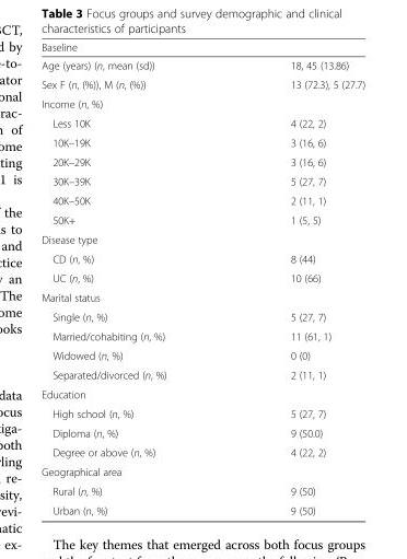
<table><thead><tr><td colspan="2">Baseline</td></tr><tr><td>Age (years) (n, mean (sd))</td><td>18, 45 (13.86)</td></tr></thead><tbody><tr><td>Sex F (n, (%)), M (n, (%))</td><td>13 (72.3), 5 (27.7)</td></tr><tr><td colspan="2">Income (n, %)</td></tr><tr><td>Less 10K</td><td>4 (22, 2)</td></tr><tr><td>10K–19K</td><td>3 (16, 6)</td></tr><tr><td>20K–29K</td><td>3 (16, 6)</td></tr><tr><td>30K–39K</td><td>5 (27, 7)</td></tr><tr><td>40K–50K</td><td>2 (11, 1)</td></tr><tr><td>50K+</td><td>1 (5, 5)</td></tr><tr><td colspan="2">Disease type</td></tr><tr><td>CD (n, %)</td><td>8 (44)</td></tr><tr><td>UC (n, %)</td><td>10 (66)</td></tr><tr><td colspan="2">Marital status</td></tr><tr><td>Single (n, %)</td><td>5 (27, 7)</td></tr><tr><td>Married/cohabiting (n, %)</td><td>11 (61, 1)</td></tr><tr><td>Widowed (n, %)</td><td>0 (0)</td></tr><tr><td>Separated/divorced (n, %)</td><td>2 (11, 1)</td></tr><tr><td colspan="2">Education</td></tr><tr><td>High school (n, %)</td><td>5 (27, 7)</td></tr><tr><td>Diploma (n, %)</td><td>9 (50.0)</td></tr><tr><td>Degree or above (n, %)</td><td>4 (22, 2)</td></tr><tr><td colspan="2">Geographical area</td></tr><tr><td>Rural (n, %)</td><td>9 (50)</td></tr><tr><td>Urban (n, %)</td><td>9 (50)</td></tr></tbody></table>